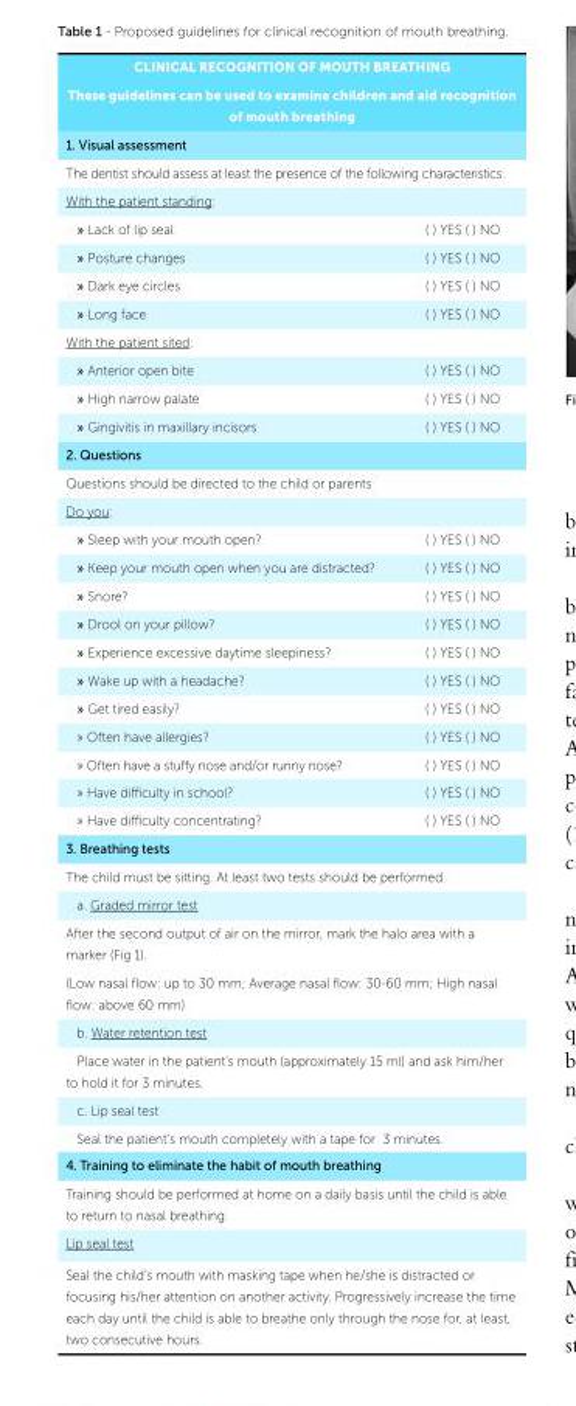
<table><thead><tr><td rowspan="4" colspan="2">CLINICAL RECOGNITION OF MOUTH BREATHING These guidelines can be used to examine children and aid recognition of mouth breathing 1. Visual assessment The dentist should assess at least the presence of the following characteristics:</td></tr><tr></tr><tr></tr><tr></tr><tr><td>With the patient standing:</td><td></td></tr></thead><tbody><tr><td>» Lack of lip seal</td><td>( ) YES ( ) NO</td></tr><tr><td>» Posture changes</td><td>( ) YES ( ) NO</td></tr><tr><td>» Dark eye circles</td><td>( ) YES ( ) NO</td></tr><tr><td>» Long face</td><td>( ) YES ( ) NO</td></tr><tr><td colspan="2">With the patient sited:</td></tr><tr><td>» Anterior open bite</td><td>( ) YES ( ) NO</td></tr><tr><td>» High narrow palate</td><td>( ) YES ( ) NO</td></tr><tr><td>» Gingivitis in maxillary incisors</td><td>( ) YES ( ) NO</td></tr><tr><td colspan="2">2. Questions</td></tr><tr><td colspan="2">Questions should be directed to the child or parents</td></tr><tr><td colspan="2">Do you:</td></tr><tr><td>» Sleep with your mouth open?</td><td>( ) YES ( ) NO</td></tr><tr><td>» Keep your mouth open when you are distracted?</td><td>( ) YES ( ) NO</td></tr><tr><td>» Snore?</td><td>( ) YES ( ) NO</td></tr><tr><td>» Drool on your pillow?</td><td>( ) YES ( ) NO</td></tr><tr><td>» Experience excessive daytime sleepiness?</td><td>( ) YES ( ) NO</td></tr><tr><td>» Wake up with a headache?</td><td>( ) YES ( ) NO</td></tr><tr><td>» Get tired easily?</td><td>( ) YES ( ) NO</td></tr><tr><td>» Often have allergies?</td><td>( ) YES ( ) NO</td></tr><tr><td>» Often have a stuffy nose and/or runny nose?</td><td>( ) YES ( ) NO</td></tr><tr><td>» Have difficulty in school?</td><td>( ) YES ( ) NO</td></tr><tr><td>» Have difficulty concentrating?</td><td>( ) YES ( ) NO</td></tr><tr><td colspan="2">3. Breathing tests</td></tr><tr><td colspan="2">The child must be sitting. At least two tests should be performed.</td></tr><tr><td colspan="2">a. Graded mirror test</td></tr><tr><td colspan="2">After the second output of air on the mirror, mark the halo area with a marker (Fig 1).</td></tr><tr><td colspan="2">(Low nasal flow: up to 30 mm; Average nasal flow: 30-60 mm; High nasal flow: above 60 mm)</td></tr><tr><td colspan="2">b. Water retention test</td></tr><tr><td colspan="2">Place water in the patient’s mouth (approximately 15 ml) and ask him/her to hold it for 3 minutes.</td></tr><tr><td colspan="2">c. Lip seal test</td></tr><tr><td colspan="2">Seal the patient’s mouth completely with a tape for 3 minutes.</td></tr><tr><td colspan="2">4. Training to eliminate the habit of mouth breathing</td></tr><tr><td colspan="2">Training should be performed at home on a daily basis until the child is able to return to nasal breathing.</td></tr><tr><td colspan="2">Lip seal test</td></tr><tr><td colspan="2">Seal the child’s mouth with masking tape when he/she is distracted or focusing his/her attention on another activity. Progressively increase the time each day until the child is able to breathe only through the nose for, at least, two consecutive hours.</td></tr></tbody></table>